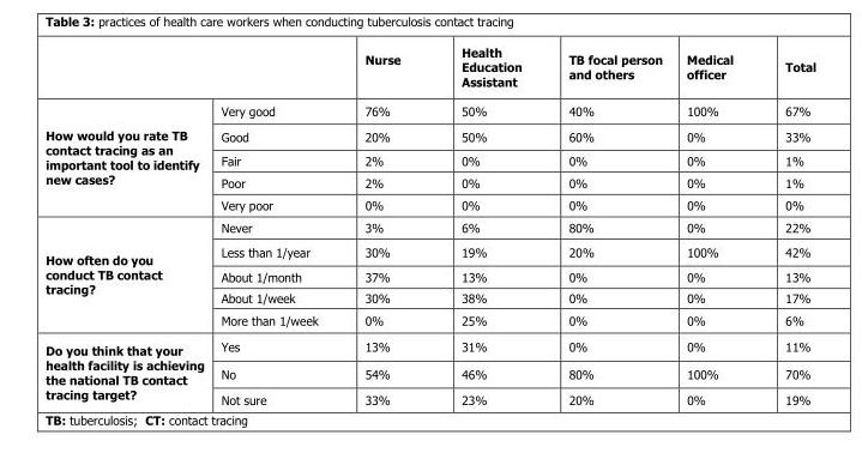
<table><thead><tr><td></td><td></td><td>Nurse</td><td>Health Education Assistant</td><td>TB focal person and others</td><td>Medical officer</td><td>Total</td></tr></thead><tbody><tr><td rowspan="5">How would you rate TB contact tracing as an important tool to identify new cases?</td><td>Very good</td><td>76%</td><td>50%</td><td>40%</td><td>100%</td><td>67%</td></tr><tr><td>Good</td><td>20%</td><td>50%</td><td>60%</td><td>0%</td><td>33%</td></tr><tr><td>Fair</td><td>2%</td><td>0%</td><td>0%</td><td>0%</td><td>1%</td></tr><tr><td>Poor</td><td>2%</td><td>0%</td><td>0%</td><td>0%</td><td>1%</td></tr><tr><td>Very poor</td><td>0%</td><td>0%</td><td>0%</td><td>0%</td><td>0%</td></tr><tr><td rowspan="5">How often do you conduct TB contact tracing?</td><td>Never</td><td>3%</td><td>6%</td><td>80%</td><td>0%</td><td>22%</td></tr><tr><td>Less than 1/year</td><td>30%</td><td>19%</td><td>20%</td><td>100%</td><td>42%</td></tr><tr><td>About 1/month</td><td>37%</td><td>13%</td><td>0%</td><td>0%</td><td>13%</td></tr><tr><td>About 1/week</td><td>30%</td><td>38%</td><td>0%</td><td>0%</td><td>17%</td></tr><tr><td>More than 1/week</td><td>0%</td><td>25%</td><td>0%</td><td>0%</td><td>6%</td></tr><tr><td rowspan="3">Do you think that your health facility is achieving the national TB contact tracing target?</td><td>Yes</td><td>13%</td><td>31%</td><td>0%</td><td>0%</td><td>11%</td></tr><tr><td>No</td><td>54%</td><td>46%</td><td>80%</td><td>100%</td><td>70%</td></tr><tr><td>Not sure</td><td>33%</td><td>23%</td><td>20%</td><td>0%</td><td>19%</td></tr></tbody></table>